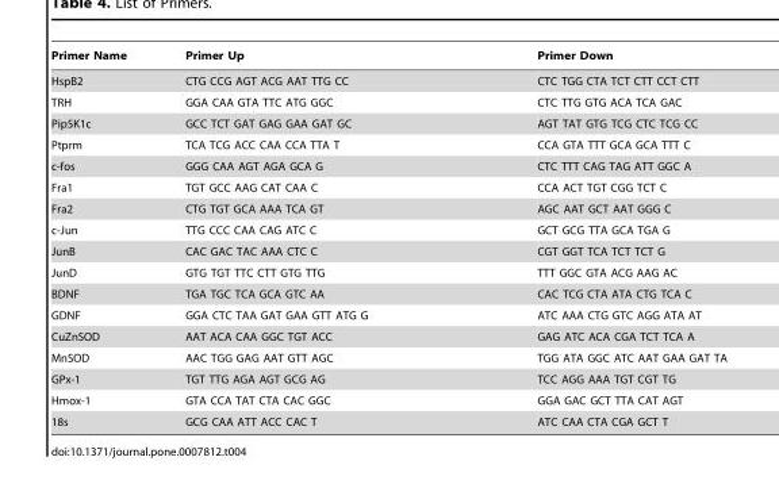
<table><thead><tr><td>Primer Name</td><td>Primer Up</td><td>Primer Down</td></tr></thead><tbody><tr><td>HspB2</td><td>CTG CCG AGT ACG AAT TTG CC</td><td>CTC TGG CTA TCT CTT CCT CTT</td></tr><tr><td>TRH</td><td>GGA CAA GTA TTC ATG GGC</td><td>CTC TTG GTG ACA TCA GAC</td></tr><tr><td>Pip5K1c</td><td>GCC TCT GAT GAG GAA GAT GC</td><td>AGT TAT GTG TCG CTC TCG CC</td></tr><tr><td>Ptprm</td><td>TCA TCG ACC CAA CCA TTA T</td><td>CCA GTA TTT GCA GCA TTT C</td></tr><tr><td>c-fos</td><td>GGG CAA AGT AGA GCA G</td><td>CTC TTT CAG TAG ATT GGC A</td></tr><tr><td>Fra1</td><td>TGT GCC AAG CAT CAA C</td><td>CCA ACT TGT CGG TCT C</td></tr><tr><td>Fra2</td><td>CTG TGT GCA AAA TCA GT</td><td>AGC AAT GCT AAT GGG C</td></tr><tr><td>c-Jun</td><td>TTG CCC CAA CAG ATC C</td><td>GCT GCG TTA GCA TGA G</td></tr><tr><td>JunB</td><td>CAC GAC TAC AAA CTC C</td><td>CGT GGT TCA TCT TCT G</td></tr><tr><td>JunD</td><td>GTG TGT TTC CTT GTG TTG</td><td>TTT GGC GTA ACG AAG AC</td></tr><tr><td>BDNF</td><td>TGA TGC TCA GCA GTC AA</td><td>CAC TCG CTA ATA CTG TCA C</td></tr><tr><td>GDNF</td><td>GGA CTC TAA GAT GAA GTT ATG G</td><td>ATC AAA CTG GTC AGG ATA AT</td></tr><tr><td>CuZnSOD</td><td>AAT ACA CAA GGC TGT ACC</td><td>GAG ATC ACA CGA TCT TCA A</td></tr><tr><td>MnSOD</td><td>AAC TGG GAG AAT GTT AGC</td><td>TGG ATA GGC ATC AAT GAA GAT TA</td></tr><tr><td>GPx-1</td><td>TGT TTG AGA AGT GCG AG</td><td>TCC AGG AAA TGT CGT TG</td></tr><tr><td>Hmox-1</td><td>GTA CCA TAT CTA CAC GGC</td><td>GGA GAC GCT TTA CAT AGT</td></tr><tr><td>18s</td><td>GCG CAA ATT ACC CAC T</td><td>ATC CAA CTA CGA GCT T</td></tr></tbody></table>